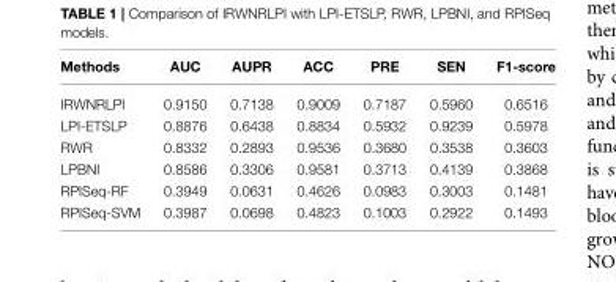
<table><thead><tr><td>Methods</td><td>AUC</td><td>AUPR</td><td>ACC</td><td>PRE</td><td>SEN</td><td>F1-score</td></tr></thead><tbody><tr><td>IRWNRLPI</td><td>0.9150</td><td>0.7138</td><td>0.9009</td><td>0.7187</td><td>0.5960</td><td>0.6516</td></tr><tr><td>LPI-ETSLP</td><td>0.8876</td><td>0.6438</td><td>0.8834</td><td>0.5932</td><td>0.9239</td><td>0.5978</td></tr><tr><td>RWR</td><td>0.8332</td><td>0.2893</td><td>0.9536</td><td>0.3680</td><td>0.3538</td><td>0.3603</td></tr><tr><td>LPBNI</td><td>0.8586</td><td>0.3306</td><td>0.9581</td><td>0.3713</td><td>0.4139</td><td>0.3868</td></tr><tr><td>RPISeq-RF</td><td>0.3949</td><td>0.0631</td><td>0.4626</td><td>0.0983</td><td>0.3003</td><td>0.1481</td></tr><tr><td>RPISeq-SVM</td><td>0.3987</td><td>0.0698</td><td>0.4823</td><td>0.1003</td><td>0.2922</td><td>0.1493</td></tr></tbody></table>